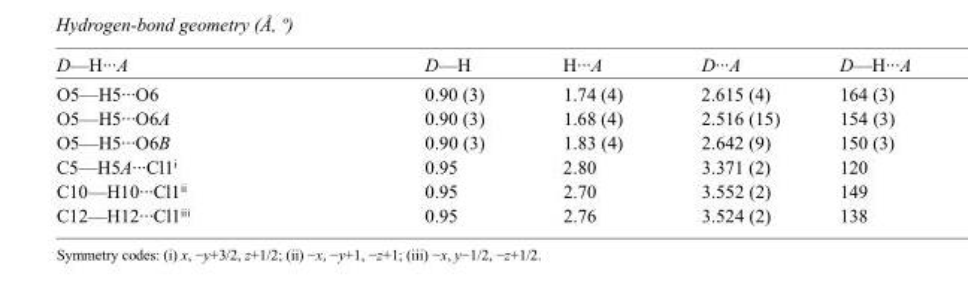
<table><tbody><tr><td>D—H···A</td><td>D—H</td><td>H···A</td><td>D···A</td><td>D—H···A</td></tr><tr><td>O5—H5···O6</td><td>0.90 (3)</td><td>1.74 (4)</td><td>2.615 (4)</td><td>164 (3)</td></tr><tr><td>O5—H5···O6A</td><td>0.90 (3)</td><td>1.68 (4)</td><td>2.516 (15)</td><td>154 (3)</td></tr><tr><td>O5—H5···O6B</td><td>0.90 (3)</td><td>1.83 (4)</td><td>2.642 (9)</td><td>150 (3)</td></tr><tr><td>C5—H5A···Cl1<sup>i</sup></td><td>0.95</td><td>2.80</td><td>3.371 (2)</td><td>120</td></tr><tr><td>C10—H10···Cl1<sup>ii</sup></td><td>0.95</td><td>2.70</td><td>3.552 (2)</td><td>149</td></tr><tr><td>C12—H12···Cl1<sup>iii</sup></td><td>0.95</td><td>2.76</td><td>3.524 (2)</td><td>138</td></tr></tbody></table>